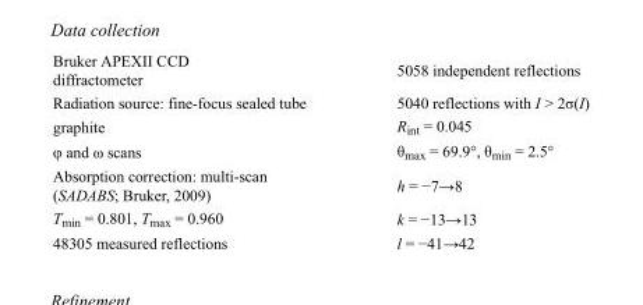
<table><tbody><tr><td>Bruker APEXII CCD diffractometer</td><td>5058 independent reflections</td></tr><tr><td>Radiation source: fine-focus sealed tube</td><td>5040 reflections with I &gt; 2σ(I)</td></tr><tr><td>graphite</td><td>R<sub>int</sub> = 0.045</td></tr><tr><td>φ and ω scans</td><td>θ<sub>max</sub> = 69.9°, θ<sub>min</sub> = 2.5°</td></tr><tr><td>Absorption correction: multi-scan (SADABS; Bruker, 2009)</td><td>h = −7→8</td></tr><tr><td>T<sub>min</sub> = 0.801, T<sub>max</sub> = 0.960</td><td>k = −13→13</td></tr><tr><td>48305 measured reflections</td><td>l = −41→42</td></tr></tbody></table>